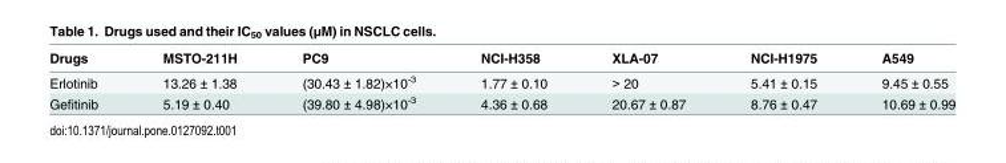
<table><thead><tr><td>Drugs</td><td>MSTO-211H</td><td>PC9</td><td>NCI-H358</td><td>XLA-07</td><td>NCI-H1975</td><td>A549</td></tr></thead><tbody><tr><td>Erlotinib</td><td>13.26 ± 1.38</td><td>(30.43 ± 1.82)×10<sup>-3</sup></td><td>1.77 ± 0.10</td><td>&gt; 20</td><td>5.41 ± 0.15</td><td>9.45 ± 0.55</td></tr><tr><td>Gefitinib</td><td>5.19 ± 0.40</td><td>(39.80 ± 4.98)×10<sup>-3</sup></td><td>4.36 ± 0.68</td><td>20.67 ± 0.87</td><td>8.76 ± 0.47</td><td>10.69 ± 0.99</td></tr></tbody></table>